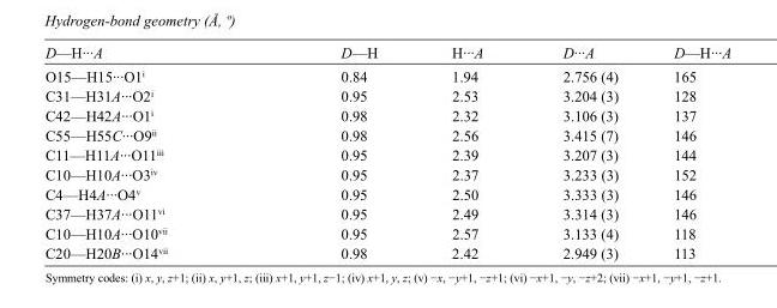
<table><tbody><tr><td>D—H···A</td><td>D—H</td><td>H···A</td><td>D···A</td><td>D—H···A</td></tr><tr><td>O15—H15···O1<sup>i</sup></td><td>0.84</td><td>1.94</td><td>2.756 (4)</td><td>165</td></tr><tr><td>C31—H31A···O2<sup>i</sup></td><td>0.95</td><td>2.53</td><td>3.204 (3)</td><td>128</td></tr><tr><td>C42—H42A···O1<sup>i</sup></td><td>0.98</td><td>2.32</td><td>3.106 (3)</td><td>137</td></tr><tr><td>C55—H55C···O9<sup>ii</sup></td><td>0.98</td><td>2.56</td><td>3.415 (7)</td><td>146</td></tr><tr><td>C11—H11A···O11<sup>iii</sup></td><td>0.95</td><td>2.39</td><td>3.207 (3)</td><td>144</td></tr><tr><td>C10—H10A···O3<sup>iv</sup></td><td>0.95</td><td>2.37</td><td>3.233 (3)</td><td>152</td></tr><tr><td>C4—H4A···O4<sup>v</sup></td><td>0.95</td><td>2.50</td><td>3.333 (3)</td><td>146</td></tr><tr><td>C37—H37A···O11<sup>vi</sup></td><td>0.95</td><td>2.49</td><td>3.314 (3)</td><td>146</td></tr><tr><td>C10—H10A···O10<sup>vii</sup></td><td>0.95</td><td>2.57</td><td>3.133 (4)</td><td>118</td></tr><tr><td>C20—H20B···O14<sup>vii</sup></td><td>0.98</td><td>2.42</td><td>2.949 (3)</td><td>113</td></tr></tbody></table>